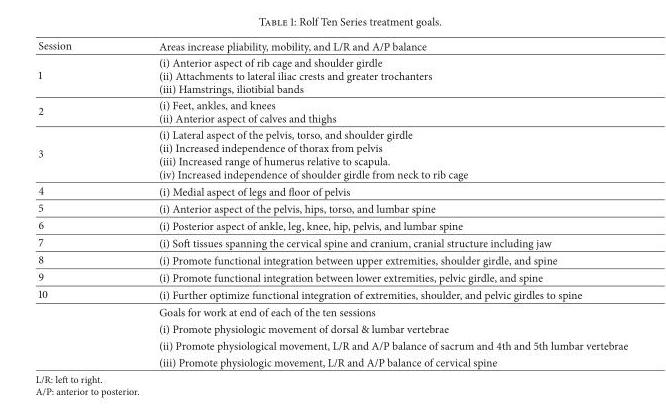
<table><thead><tr><td>Session</td><td>Areas increase pliability, mobility, and L/R and A/P balance</td></tr></thead><tbody><tr><td>1</td><td>(i) Anterior aspect of rib cage and shoulder girdle (ii) Attachments to lateral iliac crests and greater trochanters (iii) Hamstrings, iliotibial bands</td></tr><tr><td>2</td><td>(i) Feet, ankles, and knees (ii) Anterior aspect of calves and thighs</td></tr><tr><td>3</td><td>(i) Lateral aspect of the pelvis, torso, and shoulder girdle (ii) Increased independence of thorax from pelvis (iii) Increased range of humerus relative to scapula. (iv) Increased independence of shoulder girdle from neck to rib cage</td></tr><tr><td>4</td><td>(i) Medial aspect of legs and floor of pelvis</td></tr><tr><td>5</td><td>(i) Anterior aspect of the pelvis, hips, torso, and lumbar spine</td></tr><tr><td>6</td><td>(i) Posterior aspect of ankle, leg, knee, hip, pelvis, and lumbar spine</td></tr><tr><td>7</td><td>(i) Soft tissues spanning the cervical spine and cranium, cranial structure including jaw</td></tr><tr><td>8</td><td>(i) Promote functional integration between upper extremities, shoulder girdle, and spine</td></tr><tr><td>9</td><td>(i) Promote functional integration between lower extremities, pelvic girdle, and spine</td></tr><tr><td rowspan="5">10</td><td>(i) Further optimize functional integration of extremities, shoulder, and pelvic girdles to spine</td></tr><tr><td>Goals for work at end of each of the ten sessions</td></tr><tr><td>(i) Promote physiologic movement of dorsal &amp; lumbar vertebrae</td></tr><tr><td>(ii) Promote physiological movement, L/R and A/P balance of sacrum and 4th and 5th lumbar vertebrae</td></tr><tr><td>(iii) Promote physiologic movement, L/R and A/P balance of cervical spine</td></tr></tbody></table>